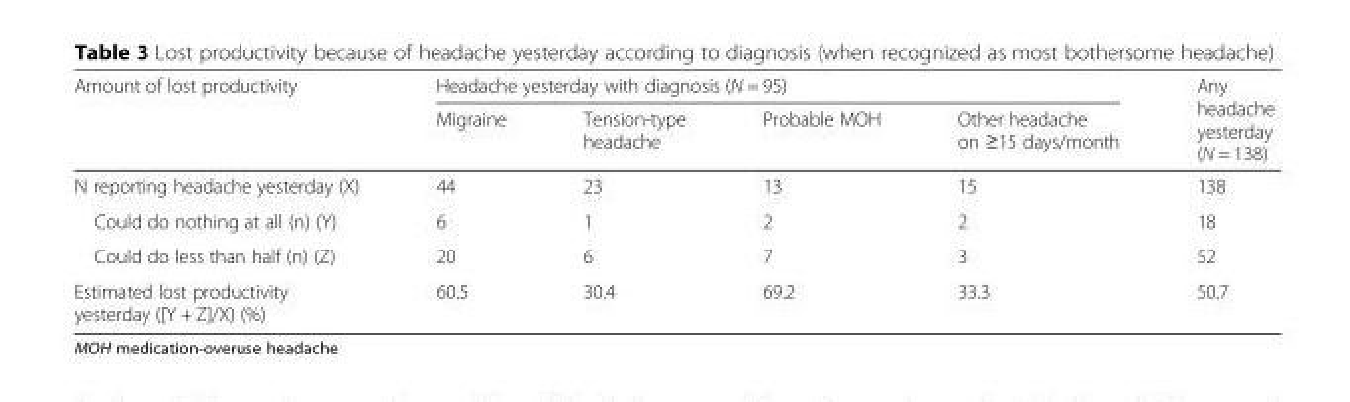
<table><thead><tr><td rowspan="2">Amount of lost productivity</td><td colspan="4">Headache yesterday with diagnosis (N = 95)</td><td rowspan="2">Any headache yesterday (N = 138)</td></tr><tr><td>Migraine</td><td>Tension-type headache</td><td>Probable MOH</td><td>Other headache on ≥15 days/month</td></tr></thead><tbody><tr><td>N reporting headache yesterday (X)</td><td>44</td><td>23</td><td>13</td><td>15</td><td>138</td></tr><tr><td>Could do nothing at all (n) (Y)</td><td>6</td><td>1</td><td>2</td><td>2</td><td>18</td></tr><tr><td>Could do less than half (n) (Z)</td><td>20</td><td>6</td><td>7</td><td>3</td><td>52</td></tr><tr><td>Estimated lost productivity yesterday ([Y + Z]/X) (%)</td><td>60.5</td><td>30.4</td><td>69.2</td><td>33.3</td><td>50.7</td></tr></tbody></table>